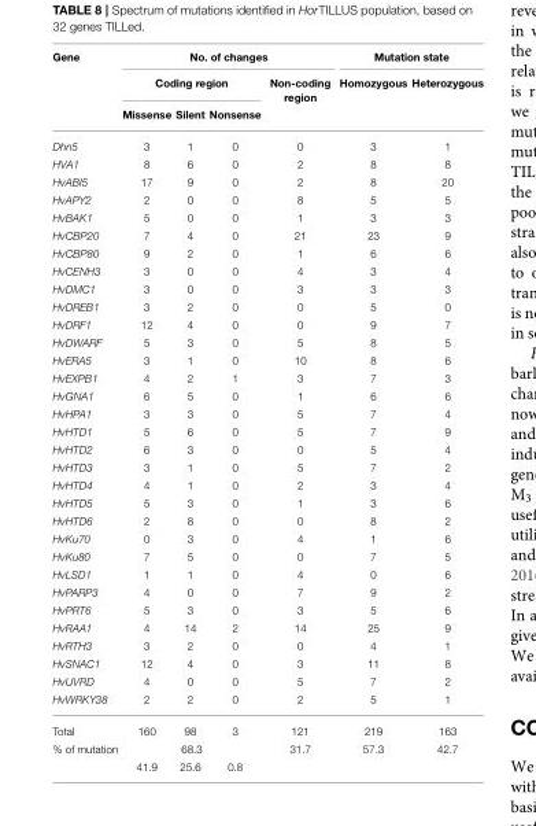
<table><thead><tr><td rowspan="3">Gene</td><td colspan="4">No. of changes</td><td colspan="2">Mutation state</td></tr><tr><td colspan="3">Coding region</td><td rowspan="2">Non-coding region</td><td rowspan="2">Homozygous</td><td rowspan="2">Heterozygous</td></tr><tr><td>Missense</td><td>Silent</td><td>Nonsense</td></tr></thead><tbody><tr><td>Dhn5</td><td>3</td><td>1</td><td>0</td><td>0</td><td>3</td><td>1</td></tr><tr><td>HVA1</td><td>8</td><td>6</td><td>0</td><td>2</td><td>8</td><td>8</td></tr><tr><td>HvABI5</td><td>17</td><td>9</td><td>0</td><td>2</td><td>8</td><td>20</td></tr><tr><td>HvAPY2</td><td>2</td><td>0</td><td>0</td><td>8</td><td>5</td><td>5</td></tr><tr><td>HvBAK1</td><td>5</td><td>0</td><td>0</td><td>1</td><td>3</td><td>3</td></tr><tr><td>HvCBP20</td><td>7</td><td>4</td><td>0</td><td>21</td><td>23</td><td>9</td></tr><tr><td>HvCBP80</td><td>9</td><td>2</td><td>0</td><td>1</td><td>6</td><td>6</td></tr><tr><td>HvCENH3</td><td>3</td><td>0</td><td>0</td><td>4</td><td>3</td><td>4</td></tr><tr><td>HvDMC1</td><td>3</td><td>0</td><td>0</td><td>3</td><td>3</td><td>3</td></tr><tr><td>HvDREB1</td><td>3</td><td>2</td><td>0</td><td>0</td><td>5</td><td>0</td></tr><tr><td>HvDRF1</td><td>12</td><td>4</td><td>0</td><td>0</td><td>9</td><td>7</td></tr><tr><td>HvDWARF</td><td>5</td><td>3</td><td>0</td><td>5</td><td>8</td><td>5</td></tr><tr><td>HvERA5</td><td>3</td><td>1</td><td>0</td><td>10</td><td>8</td><td>6</td></tr><tr><td>HvEXPB1</td><td>4</td><td>2</td><td>1</td><td>3</td><td>7</td><td>3</td></tr><tr><td>HvGNA1</td><td>6</td><td>5</td><td>0</td><td>1</td><td>6</td><td>6</td></tr><tr><td>HvHPA1</td><td>3</td><td>3</td><td>0</td><td>5</td><td>7</td><td>4</td></tr><tr><td>HvHTD1</td><td>5</td><td>6</td><td>0</td><td>5</td><td>7</td><td>9</td></tr><tr><td>HvHTD2</td><td>6</td><td>3</td><td>0</td><td>0</td><td>5</td><td>4</td></tr><tr><td>HvHTD3</td><td>3</td><td>1</td><td>0</td><td>5</td><td>7</td><td>2</td></tr><tr><td>HvHTD4</td><td>4</td><td>1</td><td>0</td><td>2</td><td>3</td><td>4</td></tr><tr><td>HvHTD5</td><td>5</td><td>3</td><td>0</td><td>1</td><td>3</td><td>6</td></tr><tr><td>HvHTD6</td><td>2</td><td>8</td><td>0</td><td>0</td><td>8</td><td>2</td></tr><tr><td>HvKu70</td><td>0</td><td>3</td><td>0</td><td>4</td><td>1</td><td>6</td></tr><tr><td>HvKu80</td><td>7</td><td>5</td><td>0</td><td>0</td><td>7</td><td>5</td></tr><tr><td>HvLSD1</td><td>1</td><td>1</td><td>0</td><td>4</td><td>0</td><td>6</td></tr><tr><td>HvPARP3</td><td>4</td><td>0</td><td>0</td><td>7</td><td>9</td><td>2</td></tr><tr><td>HvPRT6</td><td>5</td><td>3</td><td>0</td><td>3</td><td>5</td><td>6</td></tr><tr><td>HvRAA1</td><td>4</td><td>14</td><td>2</td><td>14</td><td>25</td><td>9</td></tr><tr><td>HvRTH3</td><td>3</td><td>2</td><td>0</td><td>0</td><td>4</td><td>1</td></tr><tr><td>HvSNAC1</td><td>12</td><td>4</td><td>0</td><td>3</td><td>11</td><td>8</td></tr><tr><td>HvUVRD</td><td>4</td><td>0</td><td>0</td><td>5</td><td>7</td><td>2</td></tr><tr><td>HvWRKY38</td><td>2</td><td>2</td><td>0</td><td>2</td><td>5</td><td>1</td></tr><tr><td>Total</td><td>160</td><td>98</td><td>3</td><td>121</td><td>219</td><td>163</td></tr><tr><td rowspan="2">% of mutation</td><td colspan="3">68.3</td><td>31.7</td><td>57.3</td><td>42.7</td></tr><tr><td>41.9</td><td>25.6</td><td>0.8</td><td></td><td></td><td></td></tr></tbody></table>